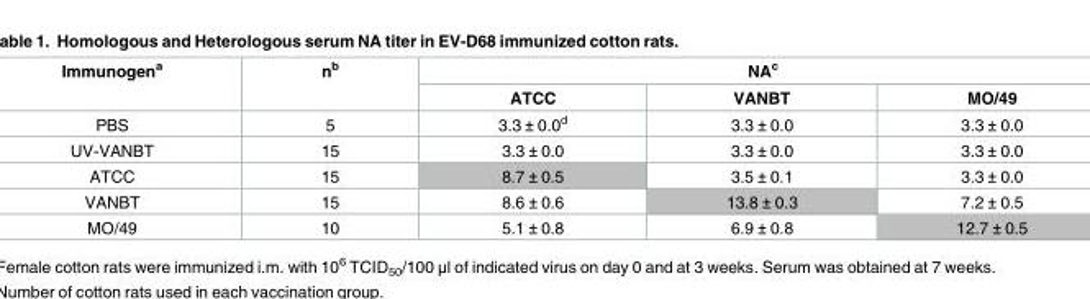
<table><thead><tr><td rowspan="2">Immunogen<sup>a</sup></td><td rowspan="2">n<sup>b</sup></td><td colspan="3">NA<sup>c</sup></td></tr><tr><td>ATCC</td><td>VANBT</td><td>MO/49</td></tr></thead><tbody><tr><td>PBS</td><td>5</td><td>3.3 ± 0.0<sup>d</sup></td><td>3.3 ± 0.0</td><td>3.3 ± 0.0</td></tr><tr><td>UV-VANBT</td><td>15</td><td>3.3 ± 0.0</td><td>3.3 ± 0.0</td><td>3.3 ± 0.0</td></tr><tr><td>ATCC</td><td>15</td><td>8.7 ± 0.5</td><td>3.5 ± 0.1</td><td>3.3 ± 0.0</td></tr><tr><td>VANBT</td><td>15</td><td>8.6 ± 0.6</td><td>13.8 ± 0.3</td><td>7.2 ± 0.5</td></tr><tr><td>MO/49</td><td>10</td><td>5.1 ± 0.8</td><td>6.9 ± 0.8</td><td>12.7 ± 0.5</td></tr></tbody></table>